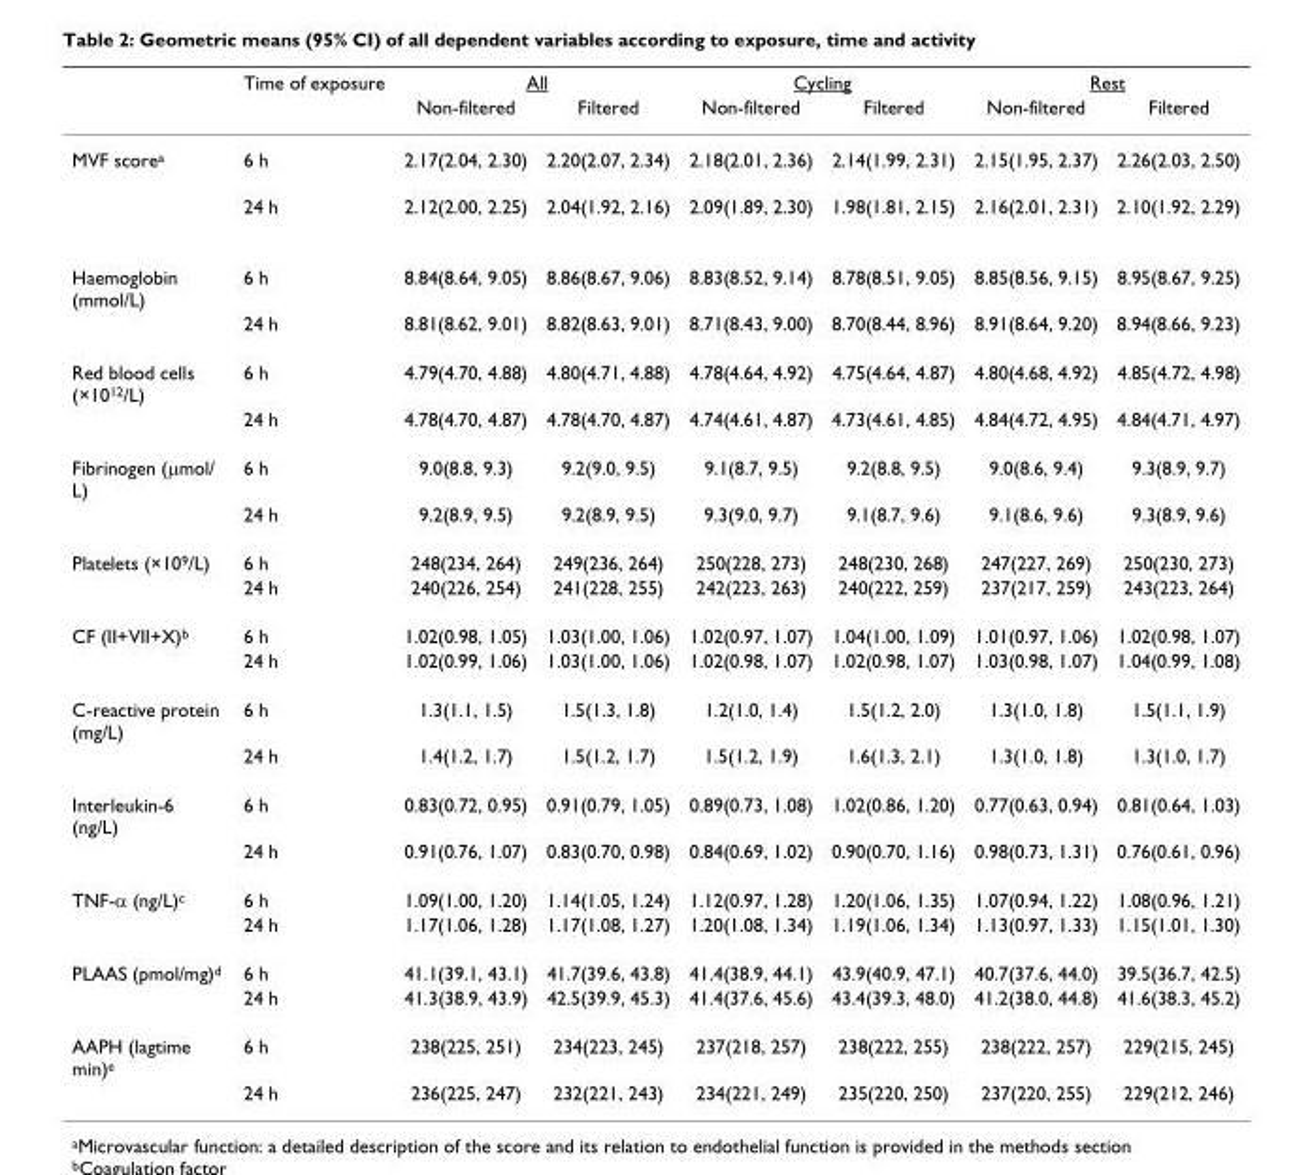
<table><thead><tr><td rowspan="2"></td><td rowspan="2">Time of exposure</td><td colspan="2">All</td><td colspan="2">Cycling</td><td colspan="2">Rest</td></tr><tr><td>Non-filtered</td><td>Filtered</td><td>Non-filtered</td><td>Filtered</td><td>Non-filtered</td><td>Filtered</td></tr></thead><tbody><tr><td rowspan="2">MVF score<sup>a</sup></td><td>6 h</td><td>2.17(2.04, 2.30)</td><td>2.20(2.07, 2.34)</td><td>2.18(2.01, 2.36)</td><td>2.14(1.99, 2.31)</td><td>2.15(1.95, 2.37)</td><td>2.26(2.03, 2.50)</td></tr><tr><td>24 h</td><td>2.12(2.00, 2.25)</td><td>2.04(1.92, 2.16)</td><td>2.09(1.89, 2.30)</td><td>1.98(1.81, 2.15)</td><td>2.16(2.01, 2.31)</td><td>2.10(1.92, 2.29)</td></tr><tr><td rowspan="2">Haemoglobin (mmol/L)</td><td>6 h</td><td>8.84(8.64, 9.05)</td><td>8.86(8.67, 9.06)</td><td>8.83(8.52, 9.14)</td><td>8.78(8.51, 9.05)</td><td>8.85(8.56, 9.15)</td><td>8.95(8.67, 9.25)</td></tr><tr><td>24 h</td><td>8.81(8.62, 9.01)</td><td>8.82(8.63, 9.01)</td><td>8.71(8.43, 9.00)</td><td>8.70(8.44, 8.96)</td><td>8.91(8.64, 9.20)</td><td>8.94(8.66, 9.23)</td></tr><tr><td rowspan="2">Red blood cells (×10<sup>12</sup>/L)</td><td>6 h</td><td>4.79(4.70, 4.88)</td><td>4.80(4.71, 4.88)</td><td>4.78(4.64, 4.92)</td><td>4.75(4.64, 4.87)</td><td>4.80(4.68, 4.92)</td><td>4.85(4.72, 4.98)</td></tr><tr><td>24 h</td><td>4.78(4.70, 4.87)</td><td>4.78(4.70, 4.87)</td><td>4.74(4.61, 4.87)</td><td>4.73(4.61, 4.85)</td><td>4.84(4.72, 4.95)</td><td>4.84(4.71, 4.97)</td></tr><tr><td rowspan="2">Fibrinogen (μmol/ L)</td><td>6 h</td><td>9.0(8.8, 9.3)</td><td>9.2(9.0, 9.5)</td><td>9.1(8.7, 9.5)</td><td>9.2(8.8, 9.5)</td><td>9.0(8.6, 9.4)</td><td>9.3(8.9, 9.7)</td></tr><tr><td>24 h</td><td>9.2(8.9, 9.5)</td><td>9.2(8.9, 9.5)</td><td>9.3(9.0, 9.7)</td><td>9.1(8.7, 9.6)</td><td>9.1(8.6, 9.6)</td><td>9.3(8.9, 9.6)</td></tr><tr><td rowspan="2">Platelets (×10<sup>9</sup>/L)</td><td>6 h</td><td>248(234, 264)</td><td>249(236, 264)</td><td>250(228, 273)</td><td>248(230, 268)</td><td>247(227, 269)</td><td>250(230, 273)</td></tr><tr><td>24 h</td><td>240(226, 254)</td><td>241(228, 255)</td><td>242(223, 263)</td><td>240(222, 259)</td><td>237(217, 259)</td><td>243(223, 264)</td></tr><tr><td rowspan="2">CF (II+VII+X)<sup>b</sup></td><td>6 h</td><td>1.02(0.98, 1.05)</td><td>1.03(1.00, 1.06)</td><td>1.02(0.97, 1.07)</td><td>1.04(1.00, 1.09)</td><td>1.01(0.97, 1.06)</td><td>1.02(0.98, 1.07)</td></tr><tr><td>24 h</td><td>1.02(0.99, 1.06)</td><td>1.03(1.00, 1.06)</td><td>1.02(0.98, 1.07)</td><td>1.02(0.98, 1.07)</td><td>1.03(0.98, 1.07)</td><td>1.04(0.99, 1.08)</td></tr><tr><td rowspan="2">C-reactive protein (mg/L)</td><td>6 h</td><td>1.3(1.1, 1.5)</td><td>1.5(1.3, 1.8)</td><td>1.2(1.0, 1.4)</td><td>1.5(1.2, 2.0)</td><td>1.3(1.0, 1.8)</td><td>1.5(1.1, 1.9)</td></tr><tr><td>24 h</td><td>1.4(1.2, 1.7)</td><td>1.5(1.2, 1.7)</td><td>1.5(1.2, 1.9)</td><td>1.6(1.3, 2.1)</td><td>1.3(1.0, 1.8)</td><td>1.3(1.0, 1.7)</td></tr><tr><td rowspan="2">Interleukin-6 (ng/L)</td><td>6 h</td><td>0.83(0.72, 0.95)</td><td>0.91(0.79, 1.05)</td><td>0.89(0.73, 1.08)</td><td>1.02(0.86, 1.20)</td><td>0.77(0.63, 0.94)</td><td>0.81(0.64, 1.03)</td></tr><tr><td>24 h</td><td>0.91(0.76, 1.07)</td><td>0.83(0.70, 0.98)</td><td>0.84(0.69, 1.02)</td><td>0.90(0.70, 1.16)</td><td>0.98(0.73, 1.31)</td><td>0.76(0.61, 0.96)</td></tr><tr><td rowspan="2">TNF-α (ng/L)<sup>c</sup></td><td>6 h</td><td>1.09(1.00, 1.20)</td><td>1.14(1.05, 1.24)</td><td>1.12(0.97, 1.28)</td><td>1.20(1.06, 1.35)</td><td>1.07(0.94, 1.22)</td><td>1.08(0.96, 1.21)</td></tr><tr><td>24 h</td><td>1.17(1.06, 1.28)</td><td>1.17(1.08, 1.27)</td><td>1.20(1.08, 1.34)</td><td>1.19(1.06, 1.34)</td><td>1.13(0.97, 1.33)</td><td>1.15(1.01, 1.30)</td></tr><tr><td rowspan="2">PLAAS (pmol/mg)<sup>d</sup></td><td>6 h</td><td>41.1(39.1, 43.1)</td><td>41.7(39.6, 43.8)</td><td>41.4(38.9, 44.1)</td><td>43.9(40.9, 47.1)</td><td>40.7(37.6, 44.0)</td><td>39.5(36.7, 42.5)</td></tr><tr><td>24 h</td><td>41.3(38.9, 43.9)</td><td>42.5(39.9, 45.3)</td><td>41.4(37.6, 45.6)</td><td>43.4(39.3, 48.0)</td><td>41.2(38.0, 44.8)</td><td>41.6(38.3, 45.2)</td></tr><tr><td rowspan="2">AAPH (lagtime min)<sup>e</sup></td><td>6 h</td><td>238(225, 251)</td><td>234(223, 245)</td><td>237(218, 257)</td><td>238(222, 255)</td><td>238(222, 257)</td><td>229(215, 245)</td></tr><tr><td>24 h</td><td>236(225, 247)</td><td>232(221, 243)</td><td>234(221, 249)</td><td>235(220, 250)</td><td>237(220, 255)</td><td>229(212, 246)</td></tr></tbody></table>